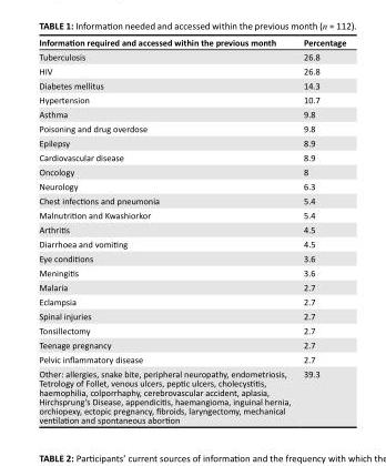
<table><thead><tr><td>Information required and accessed within the previous month</td><td>Percentage</td></tr></thead><tbody><tr><td>Tuberculosis</td><td>26.8</td></tr><tr><td>HIV</td><td>26.8</td></tr><tr><td>Diabetes mellitus</td><td>14.3</td></tr><tr><td>Hypertension</td><td>10.7</td></tr><tr><td>Asthma</td><td>9.8</td></tr><tr><td>Poisoning and drug overdose</td><td>9.8</td></tr><tr><td>Epilepsy</td><td>8.9</td></tr><tr><td>Cardiovascular disease</td><td>8.9</td></tr><tr><td>Oncology</td><td>8</td></tr><tr><td>Neurology</td><td>6.3</td></tr><tr><td>Chest infections and pneumonia</td><td>5.4</td></tr><tr><td>Malnutrition and Kwashiorkor</td><td>5.4</td></tr><tr><td>Arthritis</td><td>4.5</td></tr><tr><td>Diarrhoea and vomiting</td><td>4.5</td></tr><tr><td>Eye conditions</td><td>3.6</td></tr><tr><td>Meningitis</td><td>3.6</td></tr><tr><td>Malaria</td><td>2.7</td></tr><tr><td>Eclampsia</td><td>2.7</td></tr><tr><td>Spinal injuries</td><td>2.7</td></tr><tr><td>Tonsillectomy</td><td>2.7</td></tr><tr><td>Teenage pregnancy</td><td>2.7</td></tr><tr><td>Pelvic inflammatory disease</td><td>2.7</td></tr><tr><td>Other: allergies, snake bite, peripheral neuropathy, endometriosis, Tetrology of Follet, venous ulcers, peptic ulcers, cholecystitis, haemophilia, colporrhaphy, cerebrovascular accident, aplasia, Hirchsprung’s Disease, appendicitis, haemangioma, inguinal hernia, orchiopexy, ectopic pregnancy, fibroids, laryngectomy, mechanical ventilation and spontaneous abortion</td><td>39.3</td></tr></tbody></table>